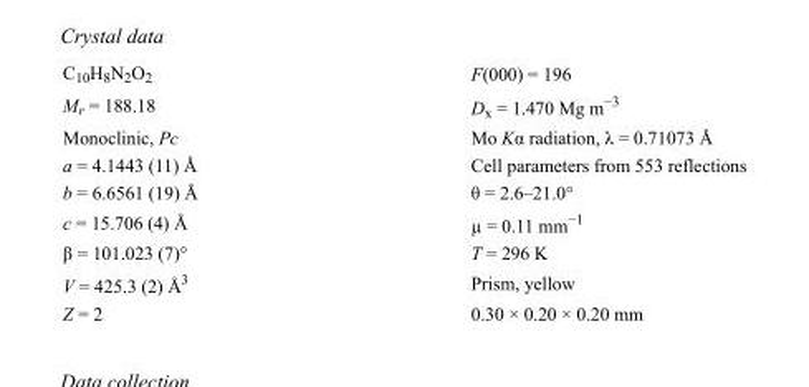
<table><tbody><tr><td>C<sub>10</sub>H<sub>8</sub>N<sub>2</sub>O<sub>2</sub></td><td>F(000) = 196</td></tr><tr><td>M<sub>r</sub> = 188.18</td><td>D<sub>x</sub> = 1.470 Mg m<sup>−3</sup></td></tr><tr><td>Monoclinic, Pc</td><td>Mo Kα radiation, λ = 0.71073 Å</td></tr><tr><td>a = 4.1443 (11) Å</td><td>Cell parameters from 553 reflections</td></tr><tr><td>b = 6.6561 (19) Å</td><td>θ = 2.6–21.0°</td></tr><tr><td>c = 15.706 (4) Å</td><td>µ = 0.11 mm<sup>−1</sup></td></tr><tr><td>β = 101.023 (7)°</td><td>T = 296 K</td></tr><tr><td>V = 425.3 (2) Å<sup>3</sup></td><td>Prism, yellow</td></tr><tr><td>Z = 2</td><td>0.30 × 0.20 × 0.20 mm</td></tr></tbody></table>